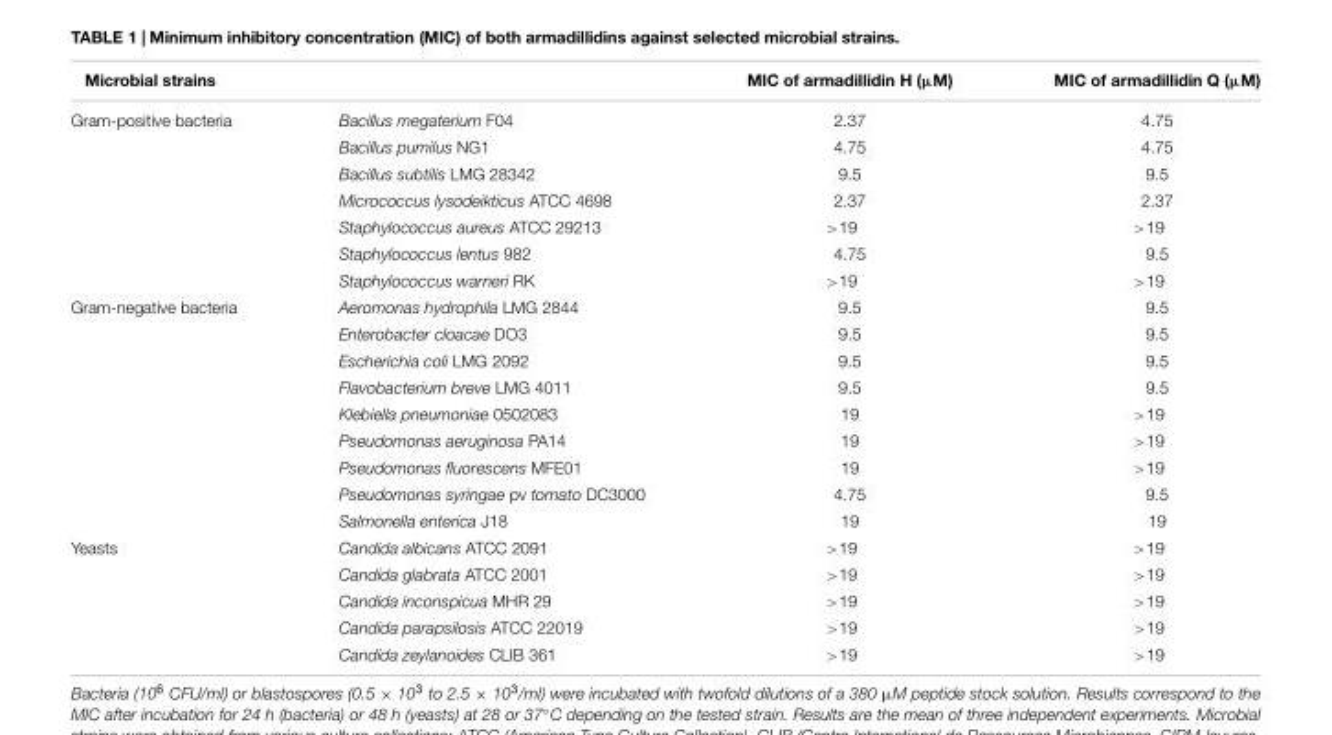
<table><thead><tr><td colspan="2">Microbial strains</td><td rowspan="2">MIC of armadillidin H (µM) 2.37</td><td rowspan="2">MIC of armadillidin Q (µM) 4.75</td></tr><tr><td>Gram-positive bacteria</td><td>Bacillus megaterium F04</td></tr></thead><tbody><tr><td></td><td>Bacillus pumilus NG1</td><td>4.75</td><td>4.75</td></tr><tr><td></td><td>Bacillus subtilis LMG 28342</td><td>9.5</td><td>9.5</td></tr><tr><td></td><td>Micrococcus lysodeikticus ATCC 4698</td><td>2.37</td><td>2.37</td></tr><tr><td></td><td>Staphylococcus aureus ATCC 29213</td><td>&gt;19</td><td>&gt;19</td></tr><tr><td></td><td>Staphylococcus lentus 982</td><td>4.75</td><td>9.5</td></tr><tr><td></td><td>Staphylococcus warneri RK</td><td>&gt;19</td><td>&gt;19</td></tr><tr><td rowspan="9">Gram-negative bacteria</td><td>Aeromonas hydrophila LMG 2844</td><td>9.5</td><td>9.5</td></tr><tr><td>Enterobacter cloacae DO3</td><td>9.5</td><td>9.5</td></tr><tr><td>Escherichia coli LMG 2092</td><td>9.5</td><td>9.5</td></tr><tr><td>Flavobacterium breve LMG 4011</td><td>9.5</td><td>9.5</td></tr><tr><td>Klebiella pneumoniae 0502083</td><td>19</td><td>&gt;19</td></tr><tr><td>Pseudomonas aeruginosa PA14</td><td>19</td><td>&gt;19</td></tr><tr><td>Pseudomonas fluorescens MFE01</td><td>19</td><td>&gt;19</td></tr><tr><td>Pseudomonas syringae pv tomato DC3000</td><td>4.75</td><td>9.5</td></tr><tr><td>Salmonella enterica J18</td><td>19</td><td>19</td></tr><tr><td rowspan="5">Yeasts</td><td>Candida albicans ATCC 2091</td><td>&gt;19</td><td>&gt;19</td></tr><tr><td>Candida glabrata ATCC 2001</td><td>&gt;19</td><td>&gt;19</td></tr><tr><td>Candida inconspicua MHR 29</td><td>&gt;19</td><td>&gt;19</td></tr><tr><td>Candida parapsilosis ATCC 22019</td><td>&gt;19</td><td>&gt;19</td></tr><tr><td>Candida zeylanoides CLIB 361</td><td>&gt;19</td><td>&gt;19</td></tr></tbody></table>